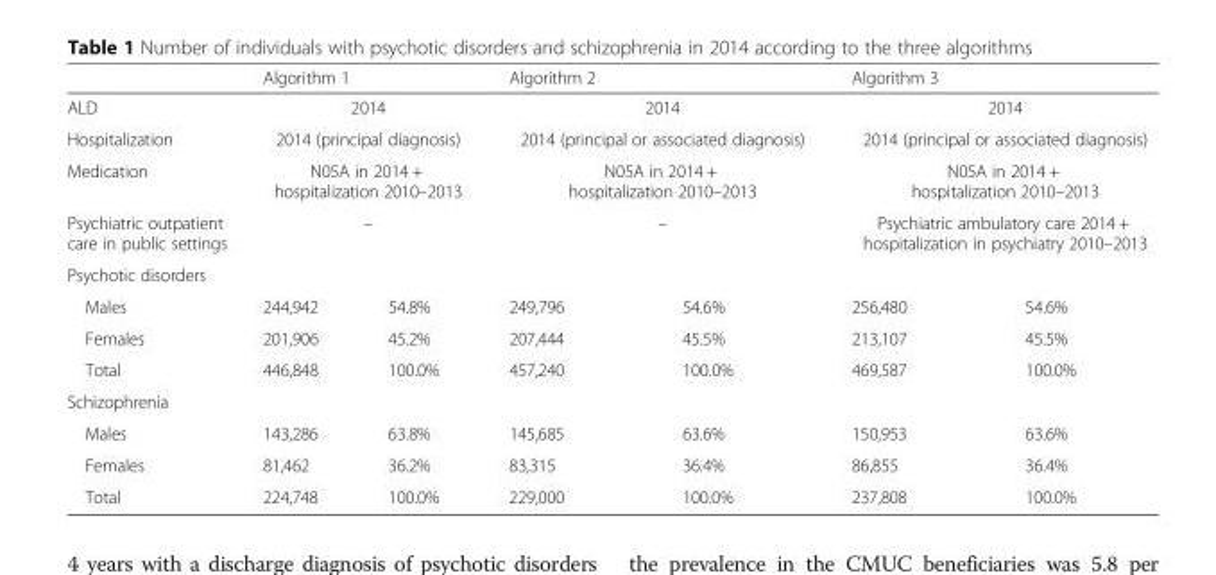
<table><thead><tr><td></td><td colspan="2">Algorithm 1</td><td colspan="2">Algorithm 2</td><td colspan="2">Algorithm 3</td></tr></thead><tbody><tr><td>ALD</td><td colspan="2">2014</td><td colspan="2">2014</td><td colspan="2">2014</td></tr><tr><td>Hospitalization</td><td colspan="2">2014 (principal diagnosis)</td><td colspan="2">2014 (principal or associated diagnosis)</td><td colspan="2">2014 (principal or associated diagnosis)</td></tr><tr><td>Medication</td><td colspan="2">N05A in 2014 + hospitalization 2010–2013</td><td colspan="2">N05A in 2014 + hospitalization 2010–2013</td><td colspan="2">N05A in 2014 + hospitalization 2010–2013</td></tr><tr><td>Psychiatric outpatient care in public settings</td><td colspan="2">–</td><td colspan="2">–</td><td colspan="2">Psychiatric ambulatory care 2014 + hospitalization in psychiatry 2010–2013</td></tr><tr><td colspan="7">Psychotic disorders</td></tr><tr><td>Males</td><td>244,942</td><td>54.8%</td><td>249,796</td><td>54.6%</td><td>256,480</td><td>54.6%</td></tr><tr><td>Females</td><td>201,906</td><td>45.2%</td><td>207,444</td><td>45.5%</td><td>213,107</td><td>45.5%</td></tr><tr><td>Total</td><td>446,848</td><td>100.0%</td><td>457,240</td><td>100.0%</td><td>469,587</td><td>100.0%</td></tr><tr><td colspan="7">Schizophrenia</td></tr><tr><td>Males</td><td>143,286</td><td>63.8%</td><td>145,685</td><td>63.6%</td><td>150,953</td><td>63.6%</td></tr><tr><td>Females</td><td>81,462</td><td>36.2%</td><td>83,315</td><td>36.4%</td><td>86,855</td><td>36.4%</td></tr><tr><td>Total</td><td>224,748</td><td>100.0%</td><td>229,000</td><td>100.0%</td><td>237,808</td><td>100.0%</td></tr></tbody></table>